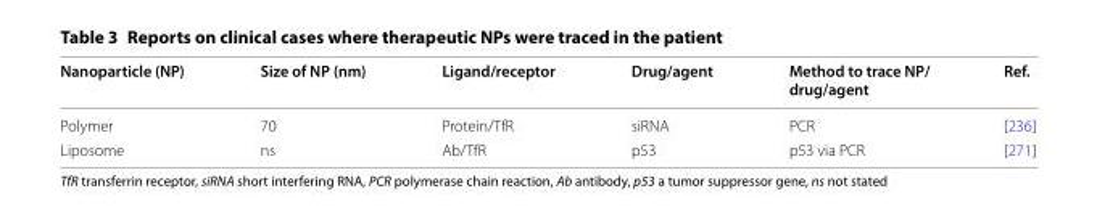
<table><thead><tr><td>Nanoparticle (NP)</td><td>Size of NP (nm)</td><td>Ligand/receptor</td><td>Drug/agent</td><td>Method to trace NP/ drug/agent</td><td>Ref.</td></tr></thead><tbody><tr><td>Polymer</td><td>70</td><td>Protein/TfR</td><td>siRNA</td><td>PCR</td><td>[236]</td></tr><tr><td>Liposome</td><td>ns</td><td>Ab/TfR</td><td>p53</td><td>p53 via PCR</td><td>[271]</td></tr></tbody></table>